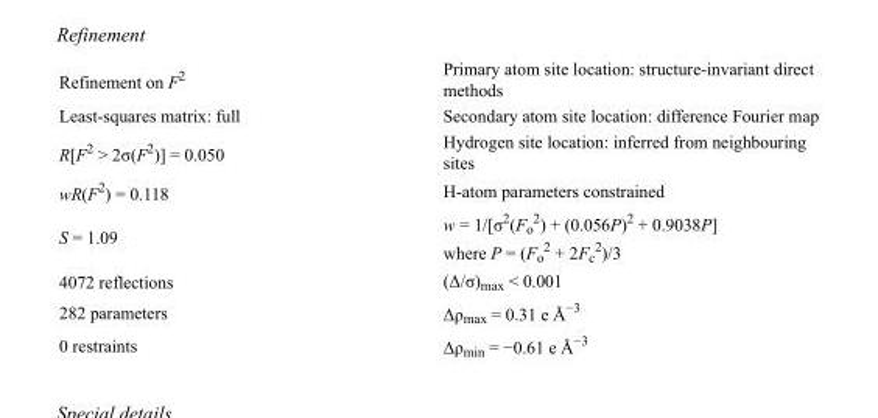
<table><tbody><tr><td>Refinement on F<sup>2</sup></td><td>Primary atom site location: structure-invariant direct methods</td></tr><tr><td>Least-squares matrix: full</td><td>Secondary atom site location: difference Fourier map</td></tr><tr><td>R[F<sup>2</sup> &gt; 2σ(F<sup>2</sup>)] = 0.050</td><td>Hydrogen site location: inferred from neighbouring sites</td></tr><tr><td>wR(F<sup>2</sup>) = 0.118</td><td>H-atom parameters constrained</td></tr><tr><td>S = 1.09</td><td>w = 1/[σ<sup>2</sup>(F<sub>o</sub> <sup>2</sup>) + (0.056P)<sup>2</sup> + 0.9038P] where P = (F<sub>o</sub> <sup>2</sup> + 2F<sub>c</sub> <sup>2</sup>)/3</td></tr><tr><td>4072 reflections</td><td>(Δ/σ)<sub>max</sub> &lt; 0.001</td></tr><tr><td>282 parameters</td><td>Δρ<sub>max</sub> = 0.31 e Å<sup>−3</sup></td></tr><tr><td>0 restraints</td><td>Δρ<sub>min</sub> = −0.61 e Å<sup>−3</sup></td></tr></tbody></table>